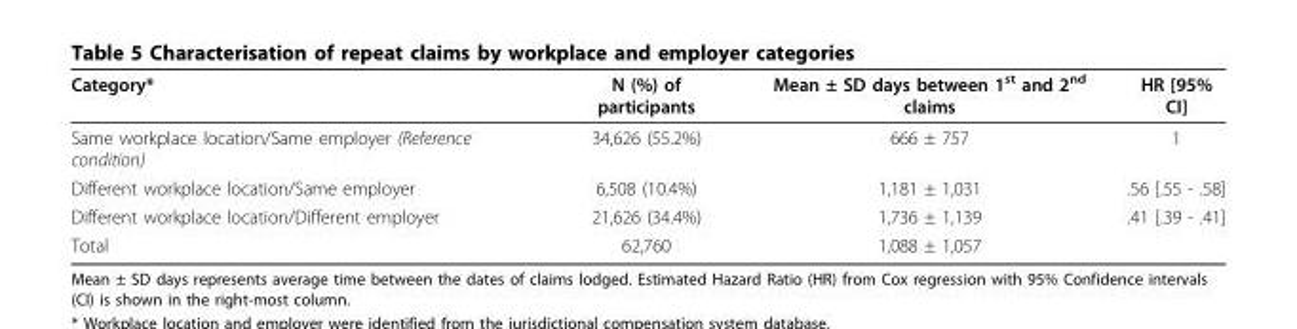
<table><thead><tr><td>Category*</td><td>N (%) of participants</td><td>Mean ± SD days between 1<sup>st</sup> and 2<sup>nd</sup> claims</td><td>HR [95% CI]</td></tr></thead><tbody><tr><td>Same workplace location/Same employer (Reference condition)</td><td>34,626 (55.2%)</td><td>666 ± 757</td><td>1</td></tr><tr><td>Different workplace location/Same employer</td><td>6,508 (10.4%)</td><td>1,181 ± 1,031</td><td>.56 [.55 - .58]</td></tr><tr><td>Different workplace location/Different employer</td><td>21,626 (34.4%)</td><td>1,736 ± 1,139</td><td>.41 [.39 - .41]</td></tr><tr><td>Total</td><td>62,760</td><td>1,088 ± 1,057</td><td></td></tr></tbody></table>